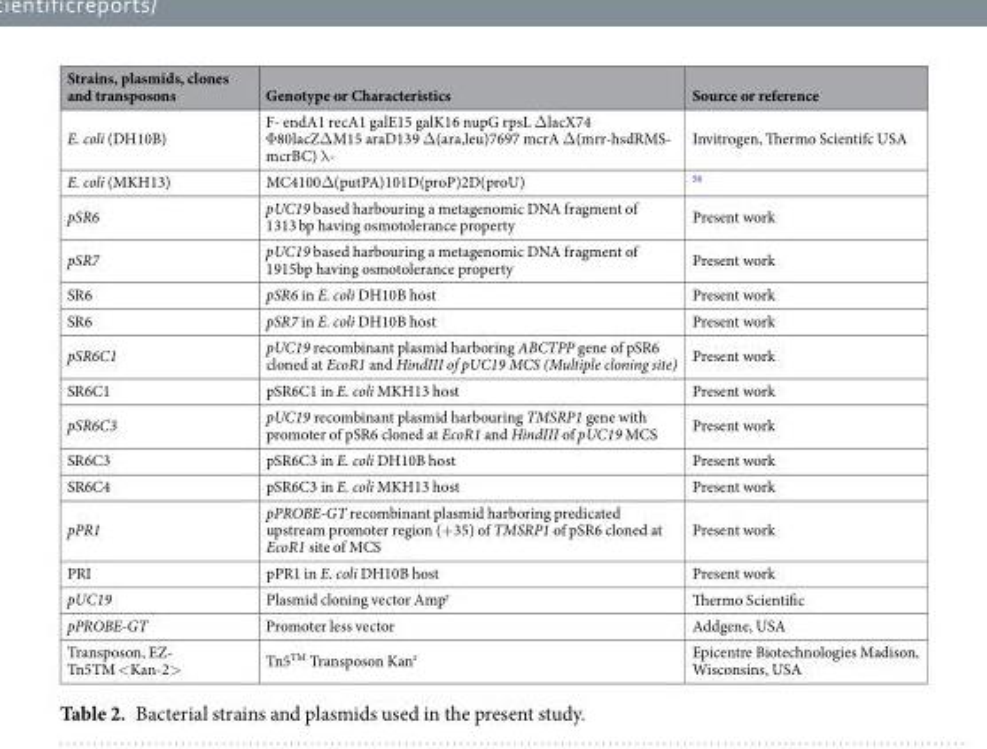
<table><thead><tr><td>Strains, plasmids, clones and transposons</td><td>Genotype or Characteristics</td><td>Source or reference</td></tr></thead><tbody><tr><td>E. coli (DH10B)</td><td>F- endA1 recA1 galE15 galK16 nupG rpsL ΔlacX74 Φ80lacZΔM15 araD139 Δ(ara,leu)7697 mcrA Δ(mrr-hsdRMS- mcrBC) λ-</td><td>Invitrogen, Thermo Scientifc USA</td></tr><tr><td>E. coli (MKH13)</td><td>MC4100Δ(putPA)101D(proP)2D(proU)</td><td><sup>56</sup></td></tr><tr><td>pSR6</td><td>pUC19 based harbouring a metagenomic DNA fragment of 1313 bp having osmotolerance property</td><td>Present work</td></tr><tr><td>pSR7</td><td>pUC19 based harbouring a metagenomic DNA fragment of 1915bp having osmotolerance property</td><td>Present work</td></tr><tr><td>SR6</td><td>pSR6 in E. coli DH10B host</td><td>Present work</td></tr><tr><td>SR6</td><td>pSR7 in E. coli DH10B host</td><td>Present work</td></tr><tr><td>pSR6C1</td><td>pUC19 recombinant plasmid harboring ABCTPP gene of pSR6 cloned at EcoR1 and HindIII of pUC19 MCS (Multiple cloning site)</td><td>Present work</td></tr><tr><td>SR6C1</td><td>pSR6C1 in E. coli MKH13 host</td><td>Present work</td></tr><tr><td>pSR6C3</td><td>pUC19 recombinant plasmid harbouring TMSRP1 gene with promoter of pSR6 cloned at EcoR1 and HindIII of pUC19 MCS</td><td>Present work</td></tr><tr><td>SR6C3</td><td>pSR6C3 in E. coli DH10B host</td><td>Present work</td></tr><tr><td>SR6C4</td><td>pSR6C3 in E. coli MKH13 host</td><td>Present work</td></tr><tr><td>pPR1</td><td>pPROBE-GT recombinant plasmid harboring predicated upstream promoter region (+35) of TMSRP1 of pSR6 cloned at EcoR1 site of MCS</td><td>Present work</td></tr><tr><td>PRI</td><td>pPR1 in E. coli DH10B host</td><td>Present work</td></tr><tr><td>pUC19</td><td>Plasmid cloning vector Amp<sup>r</sup></td><td>Thermo Scientific</td></tr><tr><td>pPROBE-GT</td><td>Promoter less vector</td><td>Addgene, USA</td></tr><tr><td>Transposon, EZ- Tn5TM &lt;Kan-2&gt;</td><td>Tn5<sup>TM</sup> Transposon Kan<sup>r</sup></td><td>Epicentre Biotechnologies Madison, Wisconsins, USA</td></tr></tbody></table>